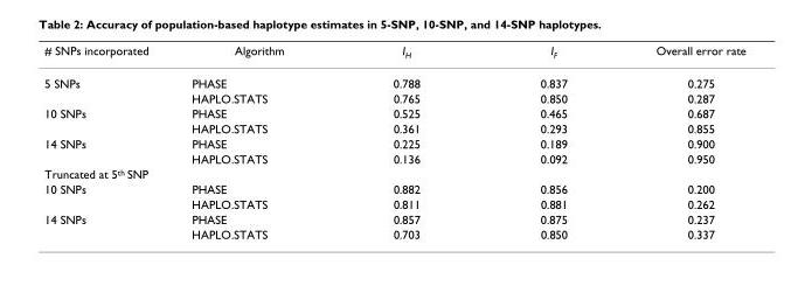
<table><thead><tr><td># SNPs incorporated</td><td>Algorithm</td><td>IH</td><td>IF</td><td>Overall error rate</td></tr></thead><tbody><tr><td rowspan="2">5 SNPs</td><td>PHASE</td><td>0.788</td><td>0.837</td><td>0.275</td></tr><tr><td>HAPLO.STATS</td><td>0.765</td><td>0.850</td><td>0.287</td></tr><tr><td rowspan="2">10 SNPs</td><td>PHASE</td><td>0.525</td><td>0.465</td><td>0.687</td></tr><tr><td>HAPLO.STATS</td><td>0.361</td><td>0.293</td><td>0.855</td></tr><tr><td rowspan="2">14 SNPs</td><td>PHASE</td><td>0.225</td><td>0.189</td><td>0.900</td></tr><tr><td>HAPLO.STATS</td><td>0.136</td><td>0.092</td><td>0.950</td></tr><tr><td colspan="5">Truncated at 5th SNP</td></tr><tr><td rowspan="2">10 SNPs</td><td>PHASE</td><td>0.882</td><td>0.856</td><td>0.200</td></tr><tr><td>HAPLO.STATS</td><td>0.811</td><td>0.881</td><td>0.262</td></tr><tr><td rowspan="2">14 SNPs</td><td>PHASE</td><td>0.857</td><td>0.875</td><td>0.237</td></tr><tr><td>HAPLO.STATS</td><td>0.703</td><td>0.850</td><td>0.337</td></tr></tbody></table>